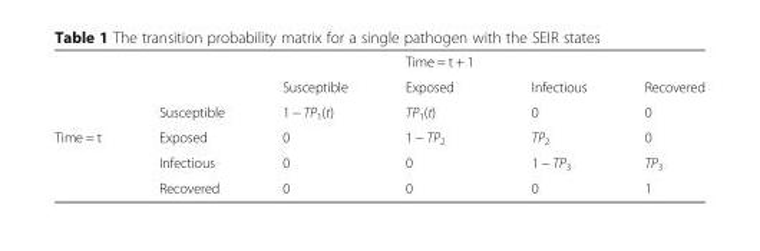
<table><thead><tr><td></td><td></td><td></td><td>Time = t + 1</td><td></td><td></td></tr></thead><tbody><tr><td></td><td></td><td>Susceptible</td><td>Exposed</td><td>Infectious</td><td>Recovered</td></tr><tr><td></td><td>Susceptible</td><td>1 − TP<sub>1</sub>(t)</td><td>TP<sub>1</sub>(t)</td><td>0</td><td>0</td></tr><tr><td rowspan="3">Time = t</td><td>Exposed</td><td>0</td><td>1 − TP<sub>2</sub></td><td>TP<sub>2</sub></td><td>0</td></tr><tr><td>Infectious</td><td>0</td><td>0</td><td>1 − TP<sub>3</sub></td><td>TP<sub>3</sub></td></tr><tr><td>Recovered</td><td>0</td><td>0</td><td>0</td><td>1</td></tr></tbody></table>